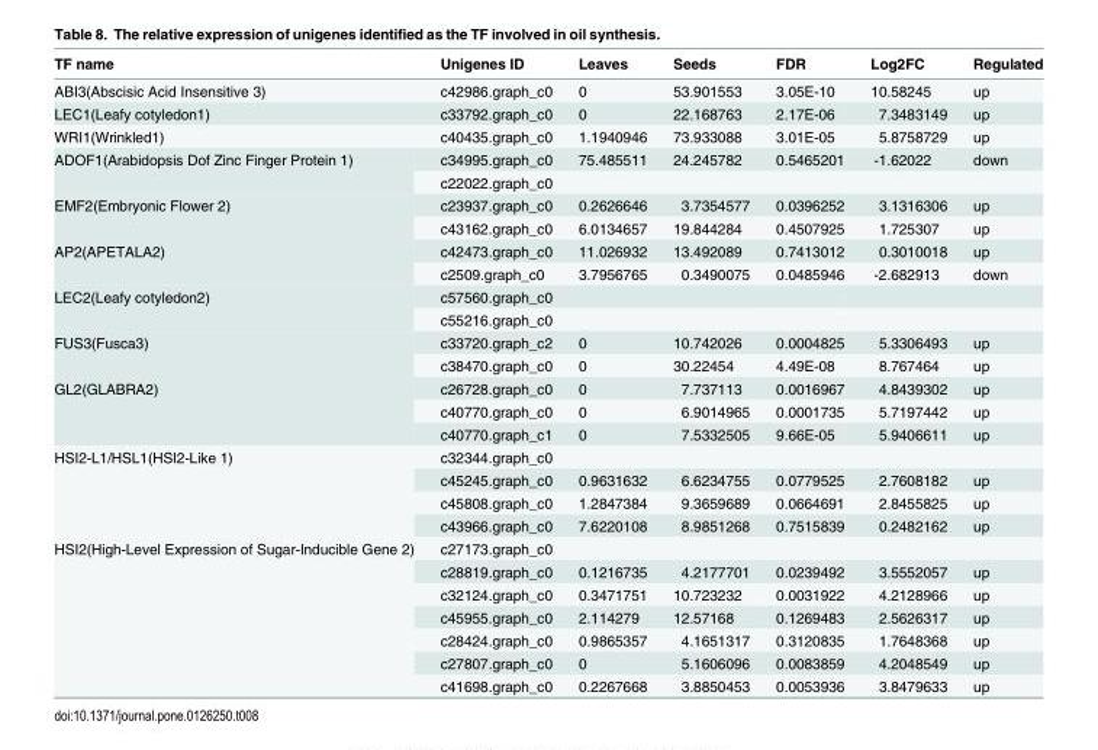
<table><thead><tr><td>TF name</td><td>Unigenes ID</td><td>Leaves</td><td>Seeds</td><td>FDR</td><td>Log2FC</td><td>Regulated</td></tr></thead><tbody><tr><td>ABI3(Abscisic Acid Insensitive 3)</td><td>c42986.graph_c0</td><td>0</td><td>53.901553</td><td>3.05E-10</td><td>10.58245</td><td>up</td></tr><tr><td>LEC1(Leafy cotyledon1)</td><td>c33792.graph_c0</td><td>0</td><td>22.168763</td><td>2.17E-06</td><td>7.3483149</td><td>up</td></tr><tr><td>WRI1(Wrinkled1)</td><td>c40435.graph_c0</td><td>1.1940946</td><td>73.933088</td><td>3.01E-05</td><td>5.8758729</td><td>up</td></tr><tr><td rowspan="2">ADOF1(Arabidopsis Dof Zinc Finger Protein 1)</td><td>c34995.graph_c0</td><td>75.485511</td><td>24.245782</td><td>0.5465201</td><td>-1.62022</td><td>down</td></tr><tr><td>c22022.graph_c0</td><td></td><td></td><td></td><td></td><td></td></tr><tr><td rowspan="2">EMF2(Embryonic Flower 2)</td><td>c23937.graph_c0</td><td>0.2626646</td><td>3.7354577</td><td>0.0396252</td><td>3.1316306</td><td>up</td></tr><tr><td>c43162.graph_c0</td><td>6.0134657</td><td>19.844284</td><td>0.4507925</td><td>1.725307</td><td>up</td></tr><tr><td rowspan="2">AP2(APETALA2)</td><td>c42473.graph_c0</td><td>11.026932</td><td>13.492089</td><td>0.7413012</td><td>0.3010018</td><td>up</td></tr><tr><td>c2509.graph_c0</td><td>3.7956765</td><td>0.3490075</td><td>0.0485946</td><td>-2.682913</td><td>down</td></tr><tr><td rowspan="2">LEC2(Leafy cotyledon2)</td><td>c57560.graph_c0</td><td></td><td></td><td></td><td></td><td></td></tr><tr><td>c55216.graph_c0</td><td></td><td></td><td></td><td></td><td></td></tr><tr><td rowspan="2">FUS3(Fusca3)</td><td>c33720.graph_c2</td><td>0</td><td>10.742026</td><td>0.0004825</td><td>5.3306493</td><td>up</td></tr><tr><td>c38470.graph_c0</td><td>0</td><td>30.22454</td><td>4.49E-08</td><td>8.767464</td><td>up</td></tr><tr><td rowspan="3">GL2(GLABRA2)</td><td>c26728.graph_c0</td><td>0</td><td>7.737113</td><td>0.0016967</td><td>4.8439302</td><td>up</td></tr><tr><td>c40770.graph_c0</td><td>0</td><td>6.9014965</td><td>0.0001735</td><td>5.7197442</td><td>up</td></tr><tr><td>c40770.graph_c1</td><td>0</td><td>7.5332505</td><td>9.66E-05</td><td>5.9406611</td><td>up</td></tr><tr><td rowspan="4">HSI2-L1/HSL1(HSI2-Like 1)</td><td>c32344.graph_c0</td><td></td><td></td><td></td><td></td><td></td></tr><tr><td>c45245.graph_c0</td><td>0.9631632</td><td>6.6234755</td><td>0.0779525</td><td>2.7608182</td><td>up</td></tr><tr><td>c45808.graph_c0</td><td>1.2847384</td><td>9.3659689</td><td>0.0664691</td><td>2.8455825</td><td>up</td></tr><tr><td>c43966.graph_c0</td><td>7.6220108</td><td>8.9851268</td><td>0.7515839</td><td>0.2482162</td><td>up</td></tr><tr><td rowspan="7">HSI2(High-Level Expression of Sugar-Inducible Gene 2)</td><td>c27173.graph_c0</td><td></td><td></td><td></td><td></td><td></td></tr><tr><td>c28819.graph_c0</td><td>0.1216735</td><td>4.2177701</td><td>0.0239492</td><td>3.5552057</td><td>up</td></tr><tr><td>c32124.graph_c0</td><td>0.3471751</td><td>10.723232</td><td>0.0031922</td><td>4.2128966</td><td>up</td></tr><tr><td>c45955.graph_c0</td><td>2.114279</td><td>12.57168</td><td>0.1269483</td><td>2.5626317</td><td>up</td></tr><tr><td>c28424.graph_c0</td><td>0.9865357</td><td>4.1651317</td><td>0.3120835</td><td>1.7648368</td><td>up</td></tr><tr><td>c27807.graph_c0</td><td>0</td><td>5.1606096</td><td>0.0083859</td><td>4.2048549</td><td>up</td></tr><tr><td>c41698.graph_c0</td><td>0.2267668</td><td>3.8850453</td><td>0.0053936</td><td>3.8479633</td><td>up</td></tr></tbody></table>